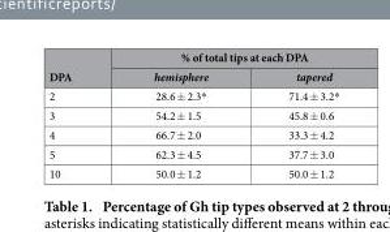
<table><thead><tr><td rowspan="2">DPA</td><td colspan="2">% of total tips at each DPA</td></tr><tr><td>hemisphere</td><td>tapered</td></tr></thead><tbody><tr><td>2</td><td>28.6 ± 2.3*</td><td>71.4 ± 3.2*</td></tr><tr><td>3</td><td>54.2 ± 1.5</td><td>45.8 ± 0.6</td></tr><tr><td>4</td><td>66.7 ± 2.0</td><td>33.3 ± 4.2</td></tr><tr><td>5</td><td>62.3 ± 4.5</td><td>37.7 ± 3.0</td></tr><tr><td>10</td><td>50.0 ± 1.2</td><td>50.0 ± 1.2</td></tr></tbody></table>